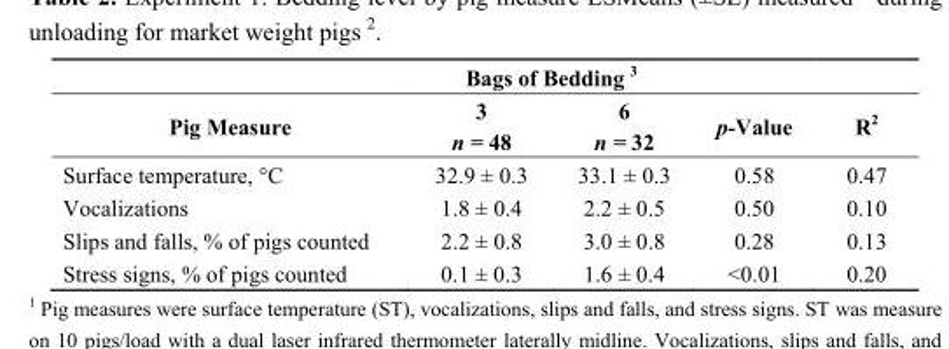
<table><thead><tr><td rowspan="2">Pig Measure</td><td colspan="2">Bags of Bedding <sup>3</sup></td><td rowspan="2">p-Value</td><td rowspan="2">R<sup>2</sup></td></tr><tr><td>3 n = 48</td><td>6 n = 32</td></tr></thead><tbody><tr><td>Surface temperature, °C</td><td>32.9 ± 0.3</td><td>33.1 ± 0.3</td><td>0.58</td><td>0.47</td></tr><tr><td>Vocalizations</td><td>1.8 ± 0.4</td><td>2.2 ± 0.5</td><td>0.50</td><td>0.10</td></tr><tr><td>Slips and falls, % of pigs counted</td><td>2.2 ± 0.8</td><td>3.0 ± 0.8</td><td>0.28</td><td>0.13</td></tr><tr><td>Stress signs, % of pigs counted</td><td>0.1 ± 0.3</td><td>1.6 ± 0.4</td><td>&lt;0.01</td><td>0.20</td></tr></tbody></table>